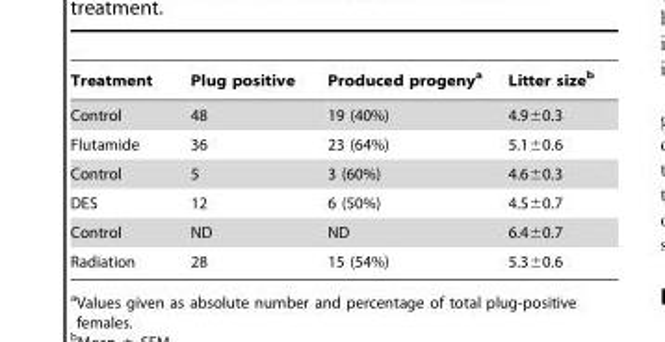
<table><thead><tr><td>Treatment</td><td>Plug positive</td><td>Produced progeny<sup>a</sup></td><td>Litter size<sup>b</sup></td></tr></thead><tbody><tr><td>Control</td><td>48</td><td>19 (40%)</td><td>4.9±0.3</td></tr><tr><td>Flutamide</td><td>36</td><td>23 (64%)</td><td>5.1±0.6</td></tr><tr><td>Control</td><td>5</td><td>3 (60%)</td><td>4.6±0.3</td></tr><tr><td>DES</td><td>12</td><td>6 (50%)</td><td>4.5±0.7</td></tr><tr><td>Control</td><td>ND</td><td>ND</td><td>6.4±0.7</td></tr><tr><td>Radiation</td><td>28</td><td>15 (54%)</td><td>5.3±0.6</td></tr></tbody></table>